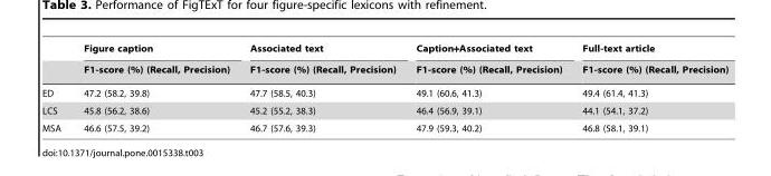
<table><thead><tr><td rowspan="2"></td><td rowspan="2">Figure caption F1-score (%) (Recall, Precision)</td><td rowspan="2">Associated text F1-score (%) (Recall, Precision)</td><td rowspan="2">Caption+Associated text F1-score (%) (Recall, Precision)</td><td rowspan="2">Full-text article F1-score (%) (Recall, Precision)</td></tr><tr></tr></thead><tbody><tr><td>ED</td><td>47.2 (58.2, 39.8)</td><td>47.7 (58.5, 40.3)</td><td>49.1 (60.6, 41.3)</td><td>49.4 (61.4, 41.3)</td></tr><tr><td>LCS</td><td>45.8 (56.2, 38.6)</td><td>45.2 (55.2, 38.3)</td><td>46.4 (56.9, 39.1)</td><td>44.1 (54.1, 37.2)</td></tr><tr><td>MSA</td><td>46.6 (57.5, 39.2)</td><td>46.7 (57.6, 39.3)</td><td>47.9 (59.3, 40.2)</td><td>46.8 (58.1, 39.1)</td></tr></tbody></table>